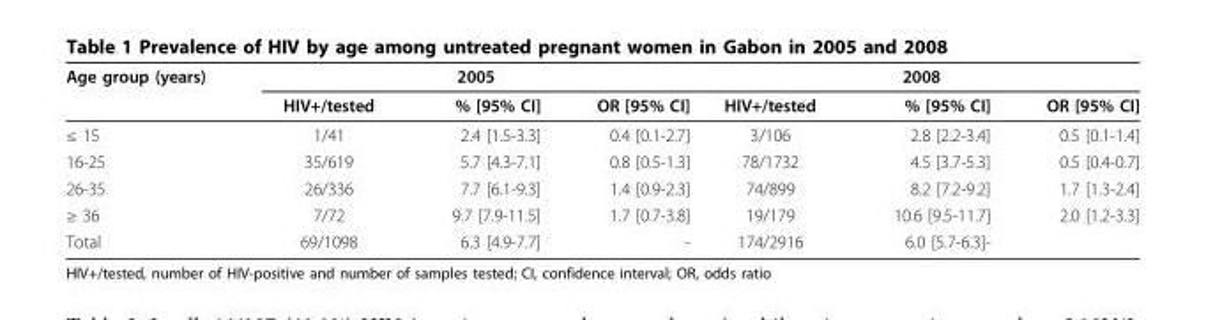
<table><thead><tr><td rowspan="2">Age group (years)</td><td colspan="3">2005</td><td colspan="3">2008</td></tr><tr><td>HIV+/tested</td><td>% [95% CI]</td><td>OR [95% CI]</td><td>HIV+/tested</td><td>% [95% CI]</td><td>OR [95% CI]</td></tr></thead><tbody><tr><td>≤ 15</td><td>1/41</td><td>2.4 [1.5-3.3]</td><td>0.4 [0.1-2.7]</td><td>3/106</td><td>2.8 [2.2-3.4]</td><td>0.5 [0.1-1.4]</td></tr><tr><td>16-25</td><td>35/619</td><td>5.7 [4.3-7.1]</td><td>0.8 [0.5-1.3]</td><td>78/1732</td><td>4.5 [3.7-5.3]</td><td>0.5 [0.4-0.7]</td></tr><tr><td>26-35</td><td>26/336</td><td>7.7 [6.1-9.3]</td><td>1.4 [0.9-2.3]</td><td>74/899</td><td>8.2 [7.2-9.2]</td><td>1.7 [1.3-2.4]</td></tr><tr><td>≥ 36</td><td>7/72</td><td>9.7 [7.9-11.5]</td><td>1.7 [0.7-3.8]</td><td>19/179</td><td>10.6 [9.5-11.7]</td><td>2.0 [1.2-3.3]</td></tr><tr><td>Total</td><td>69/1098</td><td>6.3 [4.9-7.7]</td><td>-</td><td>174/2916</td><td>6.0 [5.7-6.3]-</td><td></td></tr></tbody></table>